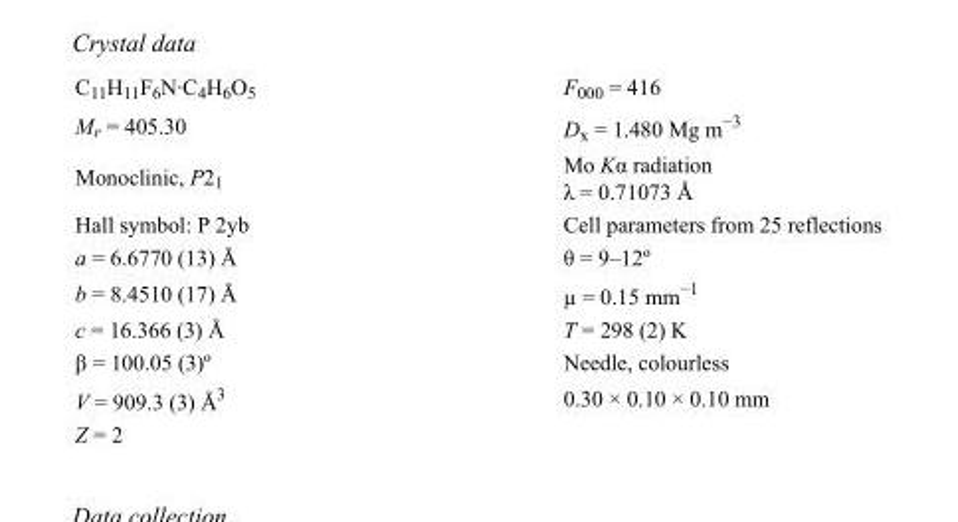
<table><tbody><tr><td>C<sub>11</sub>H<sub>11</sub>F<sub>6</sub>N·C<sub>4</sub>H<sub>6</sub>O<sub>5</sub></td><td>F000 = 416</td></tr><tr><td>M<sub>r</sub> = 405.30</td><td>D<sub>x</sub> = 1.480 Mg m<sup>−3</sup></td></tr><tr><td>Monoclinic, P2<sub>1</sub></td><td>Mo Kα radiation λ = 0.71073 Å</td></tr><tr><td>Hall symbol: P 2yb</td><td>Cell parameters from 25 reflections</td></tr><tr><td>a = 6.6770 (13) Å</td><td>θ = 9–12º</td></tr><tr><td>b = 8.4510 (17) Å</td><td>µ = 0.15 mm<sup>−1</sup></td></tr><tr><td>c = 16.366 (3) Å</td><td>T = 298 (2) K</td></tr><tr><td>β = 100.05 (3)º</td><td>Needle, colourless</td></tr><tr><td>V = 909.3 (3) Å<sup>3</sup></td><td>0.30 × 0.10 × 0.10 mm</td></tr><tr><td>Z = 2</td><td></td></tr></tbody></table>